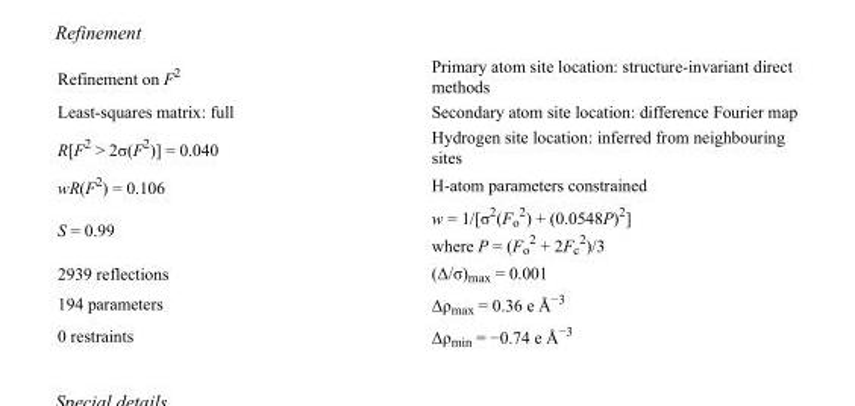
<table><tbody><tr><td>Refinement on F<sup>2</sup></td><td>Primary atom site location: structure-invariant direct methods</td></tr><tr><td>Least-squares matrix: full</td><td>Secondary atom site location: difference Fourier map</td></tr><tr><td>R[F<sup>2</sup> &gt; 2σ(F<sup>2</sup>)] = 0.040</td><td>Hydrogen site location: inferred from neighbouring sites</td></tr><tr><td>wR(F<sup>2</sup>) = 0.106</td><td>H-atom parameters constrained</td></tr><tr><td>S = 0.99</td><td>w = 1/[σ<sup>2</sup>(F<sub>o</sub> <sup>2</sup>) + (0.0548P)<sup>2</sup>] where P = (F<sub>o</sub> <sup>2</sup> + 2F<sub>c</sub> <sup>2</sup>)/3</td></tr><tr><td>2939 reflections</td><td>(Δ/σ)<sub>max</sub> = 0.001</td></tr><tr><td>194 parameters</td><td>Δρ<sub>max</sub> = 0.36 e Å<sup>−3</sup></td></tr><tr><td>0 restraints</td><td>Δρ<sub>min</sub> = −0.74 e Å<sup>−3</sup></td></tr></tbody></table>